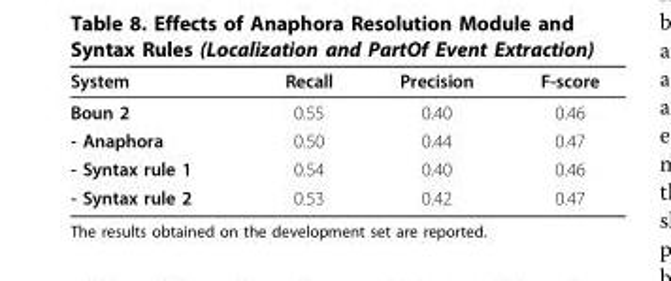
<table><thead><tr><td>System</td><td>Recall</td><td>Precision</td><td>F-score</td></tr></thead><tbody><tr><td>Boun 2</td><td>0.55</td><td>0.40</td><td>0.46</td></tr><tr><td>- Anaphora</td><td>0.50</td><td>0.44</td><td>0.47</td></tr><tr><td>- Syntax rule 1</td><td>0.54</td><td>0.40</td><td>0.46</td></tr><tr><td>- Syntax rule 2</td><td>0.53</td><td>0.42</td><td>0.47</td></tr></tbody></table>